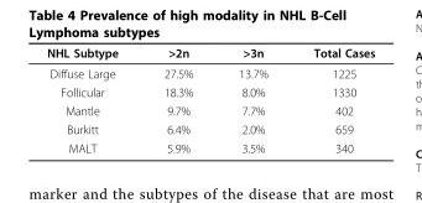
<table><thead><tr><td>NHL Subtype</td><td>&gt;2n</td><td>&gt;3n</td><td>Total Cases</td></tr></thead><tbody><tr><td>Diffuse Large</td><td>27.5%</td><td>13.7%</td><td>1225</td></tr><tr><td>Follicular</td><td>18.3%</td><td>8.0%</td><td>1330</td></tr><tr><td>Mantle</td><td>9.7%</td><td>7.7%</td><td>402</td></tr><tr><td>Burkitt</td><td>6.4%</td><td>2.0%</td><td>659</td></tr><tr><td>MALT</td><td>5.9%</td><td>3.5%</td><td>340</td></tr></tbody></table>